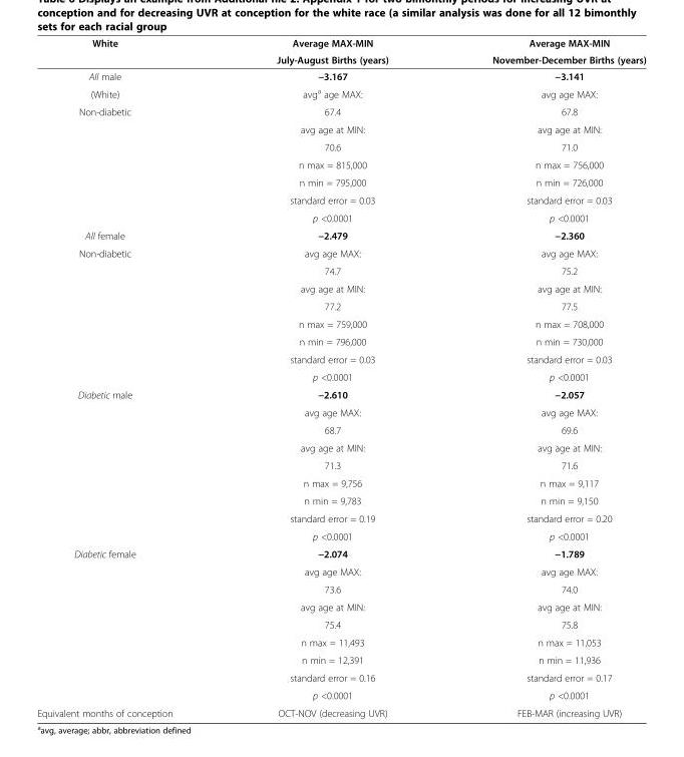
<table><thead><tr><td rowspan="2">White</td><td rowspan="2">Average MAX-MIN July-August Births (years)</td><td rowspan="2">Average MAX-MIN November-December Births (years)</td></tr><tr></tr></thead><tbody><tr><td>All male</td><td>−3.167</td><td>−3.141</td></tr><tr><td>(White)</td><td>avg<sup>a</sup> age MAX:</td><td>avg age MAX:</td></tr><tr><td rowspan="7">Non-diabetic</td><td>67.4</td><td>67.8</td></tr><tr><td>avg age at MIN:</td><td>avg age at MIN:</td></tr><tr><td>70.6</td><td>71.0</td></tr><tr><td>n max = 815,000</td><td>n max = 756,000</td></tr><tr><td>n min = 795,000</td><td>n min = 726,000</td></tr><tr><td>standard error = 0.03</td><td>standard error = 0.03</td></tr><tr><td>p &lt;0.0001</td><td>p &lt;0.0001</td></tr><tr><td>All female</td><td>−2.479</td><td>−2.360</td></tr><tr><td rowspan="8">Non-diabetic</td><td>avg age MAX:</td><td>avg age MAX:</td></tr><tr><td>74.7</td><td>75.2</td></tr><tr><td>avg age at MIN:</td><td>avg age at MIN:</td></tr><tr><td>77.2</td><td>77.5</td></tr><tr><td>n max = 759,000</td><td>n max = 708,000</td></tr><tr><td>n min = 796,000</td><td>n min = 730,000</td></tr><tr><td>standard error = 0.03</td><td>standard error = 0.03</td></tr><tr><td>p &lt;0.0001</td><td>p &lt;0.0001</td></tr><tr><td rowspan="9">Diabetic male</td><td>−2.610</td><td>−2.057</td></tr><tr><td>avg age MAX:</td><td>avg age MAX:</td></tr><tr><td>68.7</td><td>69.6</td></tr><tr><td>avg age at MIN:</td><td>avg age at MIN:</td></tr><tr><td>71.3</td><td>71.6</td></tr><tr><td>n max = 9,756</td><td>n max = 9,117</td></tr><tr><td>n min = 9,783</td><td>n min = 9,150</td></tr><tr><td>standard error = 0.19</td><td>standard error = 0.20</td></tr><tr><td>p &lt;0.0001</td><td>p &lt;0.0001</td></tr><tr><td rowspan="9">Diabetic female</td><td>−2.074</td><td>−1.789</td></tr><tr><td>avg age MAX:</td><td>avg age MAX:</td></tr><tr><td>73.6</td><td>74.0</td></tr><tr><td>avg age at MIN:</td><td>avg age at MIN:</td></tr><tr><td>75.4</td><td>75.8</td></tr><tr><td>n max = 11,493</td><td>n max = 11,053</td></tr><tr><td>n min = 12,391</td><td>n min = 11,936</td></tr><tr><td>standard error = 0.16</td><td>standard error = 0.17</td></tr><tr><td>p &lt;0.0001</td><td>p &lt;0.0001</td></tr><tr><td>Equivalent months of conception</td><td>OCT-NOV (decreasing UVR)</td><td>FEB-MAR (increasing UVR)</td></tr></tbody></table>